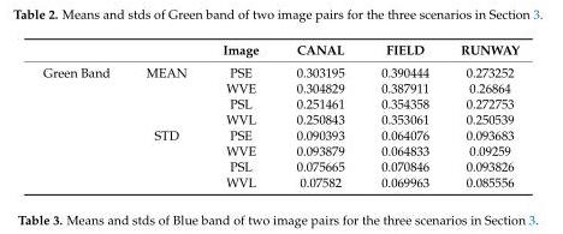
<table><thead><tr><td></td><td></td><td>Image</td><td>CANAL</td><td>FIELD</td><td>RUNWAY</td></tr></thead><tbody><tr><td rowspan="8">Green Band</td><td>MEAN</td><td>PSE</td><td>0.303195</td><td>0.390444</td><td>0.273252</td></tr><tr><td></td><td>WVE</td><td>0.304829</td><td>0.387911</td><td>0.26864</td></tr><tr><td></td><td>PSL</td><td>0.251461</td><td>0.354358</td><td>0.272753</td></tr><tr><td></td><td>WVL</td><td>0.250843</td><td>0.353061</td><td>0.250539</td></tr><tr><td>STD</td><td>PSE</td><td>0.090393</td><td>0.064076</td><td>0.093683</td></tr><tr><td></td><td>WVE</td><td>0.093879</td><td>0.064833</td><td>0.09259</td></tr><tr><td></td><td>PSL</td><td>0.075665</td><td>0.070846</td><td>0.093826</td></tr><tr><td></td><td>WVL</td><td>0.07582</td><td>0.069963</td><td>0.085556</td></tr></tbody></table>